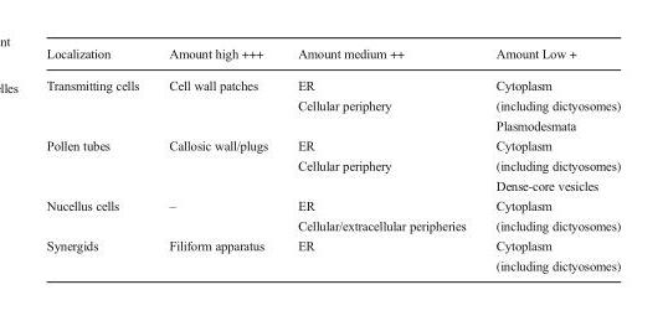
<table><thead><tr><td>Localization</td><td>Amount high +++</td><td>Amount medium ++</td><td>Amount Low +</td></tr></thead><tbody><tr><td>Transmitting cells</td><td>Cell wall patches</td><td>ER Cellular periphery</td><td>Cytoplasm (including dictyosomes) Plasmodesmata</td></tr><tr><td>Pollen tubes</td><td>Callosic wall/plugs</td><td>ER Cellular periphery</td><td>Cytoplasm (including dictyosomes) Dense-core vesicles</td></tr><tr><td>Nucellus cells</td><td>–</td><td>ER Cellular/extracellular peripheries</td><td>Cytoplasm (including dictyosomes)</td></tr><tr><td>Synergids</td><td>Filiform apparatus</td><td>ER</td><td>Cytoplasm (including dictyosomes)</td></tr></tbody></table>